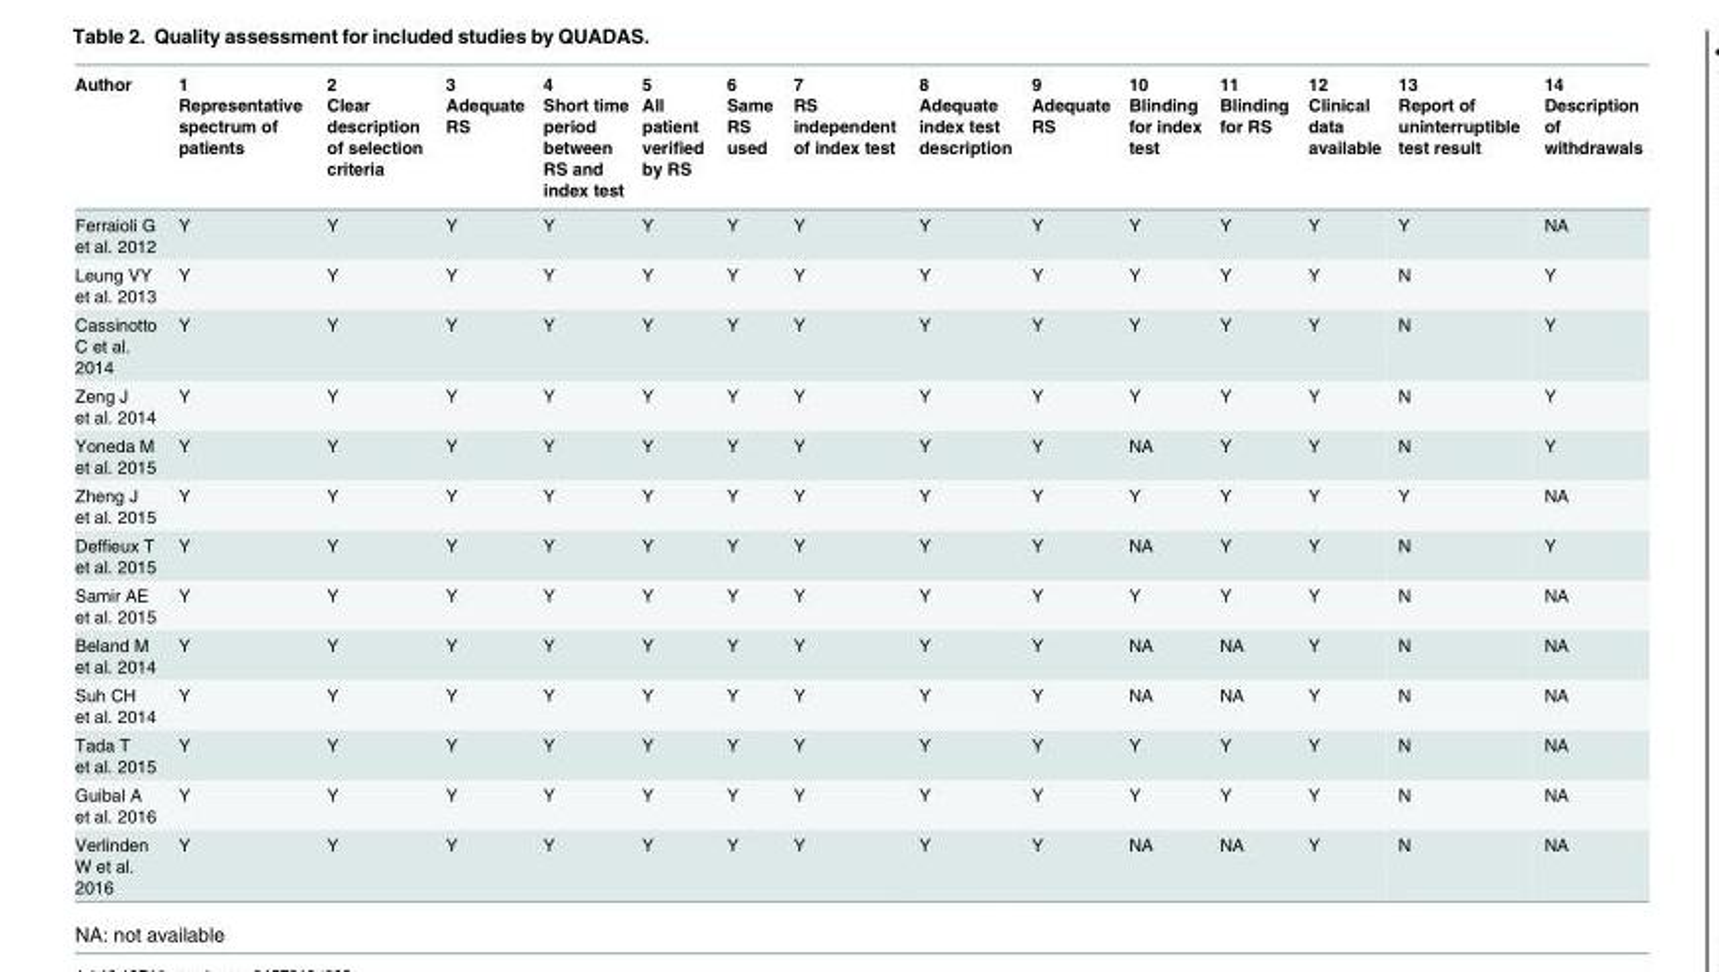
<table><thead><tr><td rowspan="2">Author</td><td rowspan="2">1 Representative spectrum of patients</td><td rowspan="2">2 Clear description of selection criteria</td><td rowspan="2">3 Adequate RS</td><td rowspan="2">4 Short time period between RS and index test</td><td rowspan="2">5 All patient verified by RS</td><td rowspan="2">6 Same RS used</td><td rowspan="2">7 RS independent of index test</td><td rowspan="2">8 Adequate index test description</td><td rowspan="2">9 Adequate RS</td><td rowspan="2">10 Blinding for index test</td><td rowspan="2">11 Blinding for RS</td><td rowspan="2">12 Clinical data available</td><td rowspan="2">13 Report of uninterruptible test result</td><td rowspan="2">14 Description of withdrawals</td></tr><tr></tr></thead><tbody><tr><td>Ferraioli G et al. 2012</td><td>Y</td><td>Y</td><td>Y</td><td>Y</td><td>Y</td><td>Y</td><td>Y</td><td>Y</td><td>Y</td><td>Y</td><td>Y</td><td>Y</td><td>Y</td><td>NA</td></tr><tr><td>Leung VY et al. 2013</td><td>Y</td><td>Y</td><td>Y</td><td>Y</td><td>Y</td><td>Y</td><td>Y</td><td>Y</td><td>Y</td><td>Y</td><td>Y</td><td>Y</td><td>N</td><td>Y</td></tr><tr><td>Cassinotto C et al. 2014</td><td>Y</td><td>Y</td><td>Y</td><td>Y</td><td>Y</td><td>Y</td><td>Y</td><td>Y</td><td>Y</td><td>Y</td><td>Y</td><td>Y</td><td>N</td><td>Y</td></tr><tr><td>Zeng J et al. 2014</td><td>Y</td><td>Y</td><td>Y</td><td>Y</td><td>Y</td><td>Y</td><td>Y</td><td>Y</td><td>Y</td><td>Y</td><td>Y</td><td>Y</td><td>N</td><td>Y</td></tr><tr><td>Yoneda M et al. 2015</td><td>Y</td><td>Y</td><td>Y</td><td>Y</td><td>Y</td><td>Y</td><td>Y</td><td>Y</td><td>Y</td><td>NA</td><td>Y</td><td>Y</td><td>N</td><td>Y</td></tr><tr><td>Zheng J et al. 2015</td><td>Y</td><td>Y</td><td>Y</td><td>Y</td><td>Y</td><td>Y</td><td>Y</td><td>Y</td><td>Y</td><td>Y</td><td>Y</td><td>Y</td><td>Y</td><td>NA</td></tr><tr><td>Deffieux T et al. 2015</td><td>Y</td><td>Y</td><td>Y</td><td>Y</td><td>Y</td><td>Y</td><td>Y</td><td>Y</td><td>Y</td><td>NA</td><td>Y</td><td>Y</td><td>N</td><td>Y</td></tr><tr><td>Samir AE et al. 2015</td><td>Y</td><td>Y</td><td>Y</td><td>Y</td><td>Y</td><td>Y</td><td>Y</td><td>Y</td><td>Y</td><td>Y</td><td>Y</td><td>Y</td><td>N</td><td>NA</td></tr><tr><td>Beland M et al. 2014</td><td>Y</td><td>Y</td><td>Y</td><td>Y</td><td>Y</td><td>Y</td><td>Y</td><td>Y</td><td>Y</td><td>NA</td><td>NA</td><td>Y</td><td>N</td><td>NA</td></tr><tr><td>Suh CH et al. 2014</td><td>Y</td><td>Y</td><td>Y</td><td>Y</td><td>Y</td><td>Y</td><td>Y</td><td>Y</td><td>Y</td><td>NA</td><td>NA</td><td>Y</td><td>N</td><td>NA</td></tr><tr><td>Tada T et al. 2015</td><td>Y</td><td>Y</td><td>Y</td><td>Y</td><td>Y</td><td>Y</td><td>Y</td><td>Y</td><td>Y</td><td>Y</td><td>Y</td><td>Y</td><td>N</td><td>NA</td></tr><tr><td>Guibal A et al. 2016</td><td>Y</td><td>Y</td><td>Y</td><td>Y</td><td>Y</td><td>Y</td><td>Y</td><td>Y</td><td>Y</td><td>Y</td><td>Y</td><td>Y</td><td>N</td><td>NA</td></tr><tr><td>Verlinden W et al. 2016</td><td>Y</td><td>Y</td><td>Y</td><td>Y</td><td>Y</td><td>Y</td><td>Y</td><td>Y</td><td>Y</td><td>NA</td><td>NA</td><td>Y</td><td>N</td><td>NA</td></tr></tbody></table>